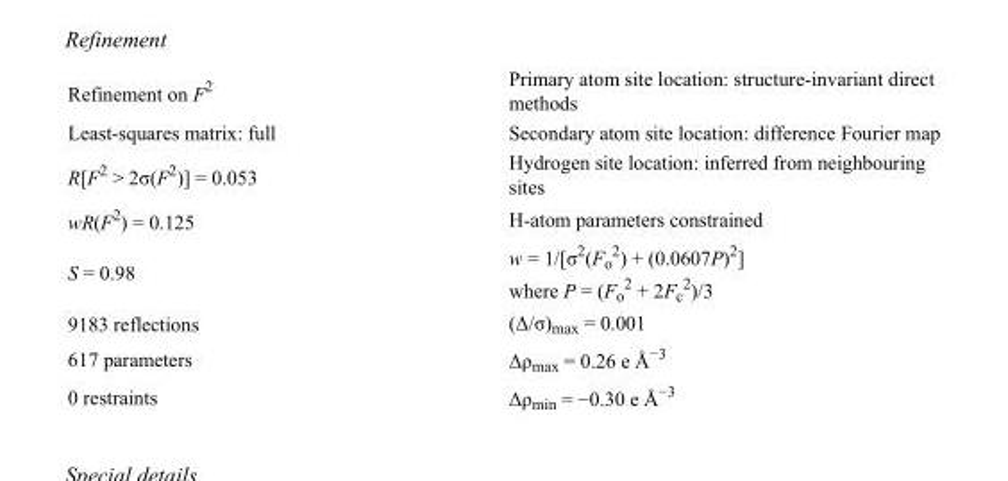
<table><tbody><tr><td>Refinement on F<sup>2</sup></td><td>Primary atom site location: structure-invariant direct methods</td></tr><tr><td>Least-squares matrix: full</td><td>Secondary atom site location: difference Fourier map</td></tr><tr><td>R[F<sup>2</sup> &gt; 2σ(F<sup>2</sup>)] = 0.053</td><td>Hydrogen site location: inferred from neighbouring sites</td></tr><tr><td>wR(F<sup>2</sup>) = 0.125</td><td>H-atom parameters constrained</td></tr><tr><td>S = 0.98</td><td>w = 1/[σ<sup>2</sup>(F<sub>o</sub> <sup>2</sup>) + (0.0607P)<sup>2</sup>] where P = (F<sub>o</sub> <sup>2</sup> + 2F<sub>c</sub> <sup>2</sup>)/3</td></tr><tr><td>9183 reflections</td><td>(Δ/σ)<sub>max</sub> = 0.001</td></tr><tr><td>617 parameters</td><td>Δρ<sub>max</sub> = 0.26 e Å<sup>−3</sup></td></tr><tr><td>0 restraints</td><td>Δρ<sub>min</sub> = −0.30 e Å<sup>−3</sup></td></tr></tbody></table>